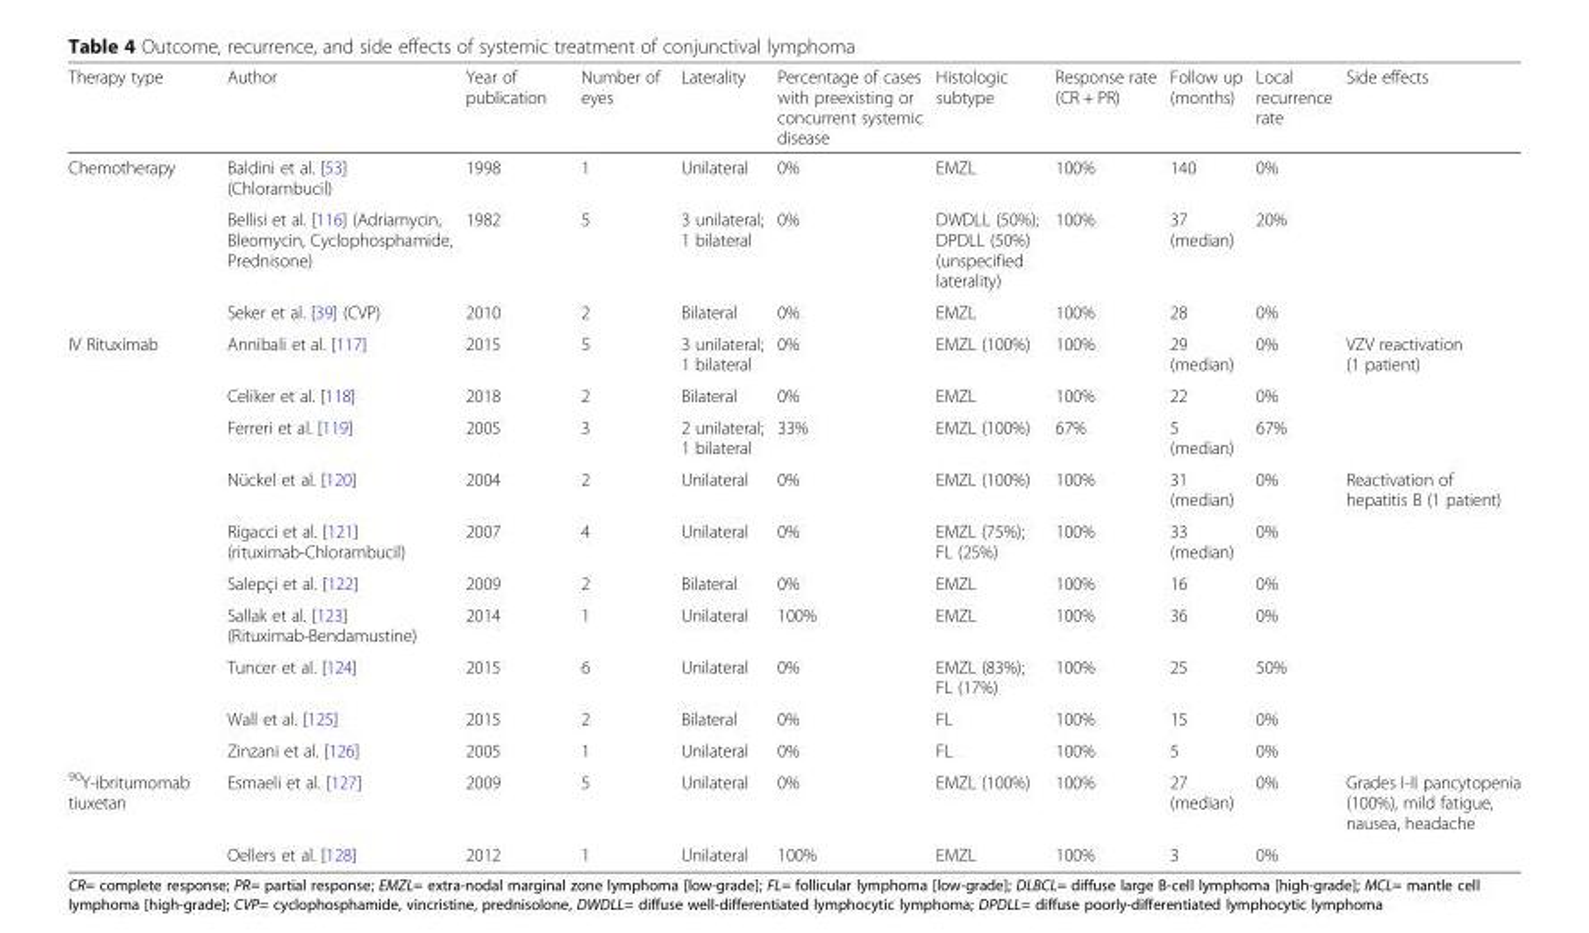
<table><thead><tr><td>Therapy type</td><td>Author</td><td>Year of publication</td><td>Number of eyes</td><td>Laterality</td><td>Percentage of cases with preexisting or concurrent systemic disease</td><td>Histologic subtype</td><td>Response rate (CR + PR)</td><td>Follow up (months)</td><td>Local recurrence rate</td><td>Side effects</td></tr></thead><tbody><tr><td rowspan="3">Chemotherapy</td><td>Baldini et al. [53] (Chlorambucil)</td><td>1998</td><td>1</td><td>Unilateral</td><td>0%</td><td>EMZL</td><td>100%</td><td>140</td><td>0%</td><td></td></tr><tr><td>Bellisi et al. [116] (Adriamycin, Bleomycin, Cyclophosphamide, Prednisone)</td><td>1982</td><td>5</td><td>3 unilateral; 1 bilateral</td><td>0%</td><td>DWDLL (50%); DPDLL (50%) (unspecified laterality)</td><td>100%</td><td>37 (median)</td><td>20%</td><td></td></tr><tr><td>Seker et al. [39] (CVP)</td><td>2010</td><td>2</td><td>Bilateral</td><td>0%</td><td>EMZL</td><td>100%</td><td>28</td><td>0%</td><td></td></tr><tr><td rowspan="10">IV Rituximab</td><td>Annibali et al. [117]</td><td>2015</td><td>5</td><td>3 unilateral; 1 bilateral</td><td>0%</td><td>EMZL (100%)</td><td>100%</td><td>29 (median)</td><td>0%</td><td>VZV reactivation (1 patient)</td></tr><tr><td>Celiker et al. [118]</td><td>2018</td><td>2</td><td>Bilateral</td><td>0%</td><td>EMZL</td><td>100%</td><td>22</td><td>0%</td><td></td></tr><tr><td>Ferreri et al. [119]</td><td>2005</td><td>3</td><td>2 unilateral; 1 bilateral</td><td>33%</td><td>EMZL (100%)</td><td>67%</td><td>5 (median)</td><td>67%</td><td></td></tr><tr><td>Nückel et al. [120]</td><td>2004</td><td>2</td><td>Unilateral</td><td>0%</td><td>EMZL (100%)</td><td>100%</td><td>31 (median)</td><td>0%</td><td>Reactivation of hepatitis B (1 patient)</td></tr><tr><td>Rigacci et al. [121] (rituximab-Chlorambucil)</td><td>2007</td><td>4</td><td>Unilateral</td><td>0%</td><td>EMZL (75%); FL (25%)</td><td>100%</td><td>33 (median)</td><td>0%</td><td></td></tr><tr><td>Salepçi et al. [122]</td><td>2009</td><td>2</td><td>Bilateral</td><td>0%</td><td>EMZL</td><td>100%</td><td>16</td><td>0%</td><td></td></tr><tr><td>Sallak et al. [123] (Rituximab-Bendamustine)</td><td>2014</td><td>1</td><td>Unilateral</td><td>100%</td><td>EMZL</td><td>100%</td><td>36</td><td>0%</td><td></td></tr><tr><td>Tuncer et al. [124]</td><td>2015</td><td>6</td><td>Unilateral</td><td>0%</td><td>EMZL (83%); FL (17%)</td><td>100%</td><td>25</td><td>50%</td><td></td></tr><tr><td>Wall et al. [125]</td><td>2015</td><td>2</td><td>Bilateral</td><td>0%</td><td>FL</td><td>100%</td><td>15</td><td>0%</td><td></td></tr><tr><td>Zinzani et al. [126]</td><td>2005</td><td>1</td><td>Unilateral</td><td>0%</td><td>FL</td><td>100%</td><td>5</td><td>0%</td><td></td></tr><tr><td rowspan="2"><sup>90</sup>Y-ibritumomab tiuxetan</td><td>Esmaeli et al. [127]</td><td>2009</td><td>5</td><td>Unilateral</td><td>0%</td><td>EMZL (100%)</td><td>100%</td><td>27 (median)</td><td>0%</td><td>Grades I-II pancytopenia (100%), mild fatigue, nausea, headache</td></tr><tr><td>Oellers et al. [128]</td><td>2012</td><td>1</td><td>Unilateral</td><td>100%</td><td>EMZL</td><td>100%</td><td>3</td><td>0%</td><td></td></tr></tbody></table>